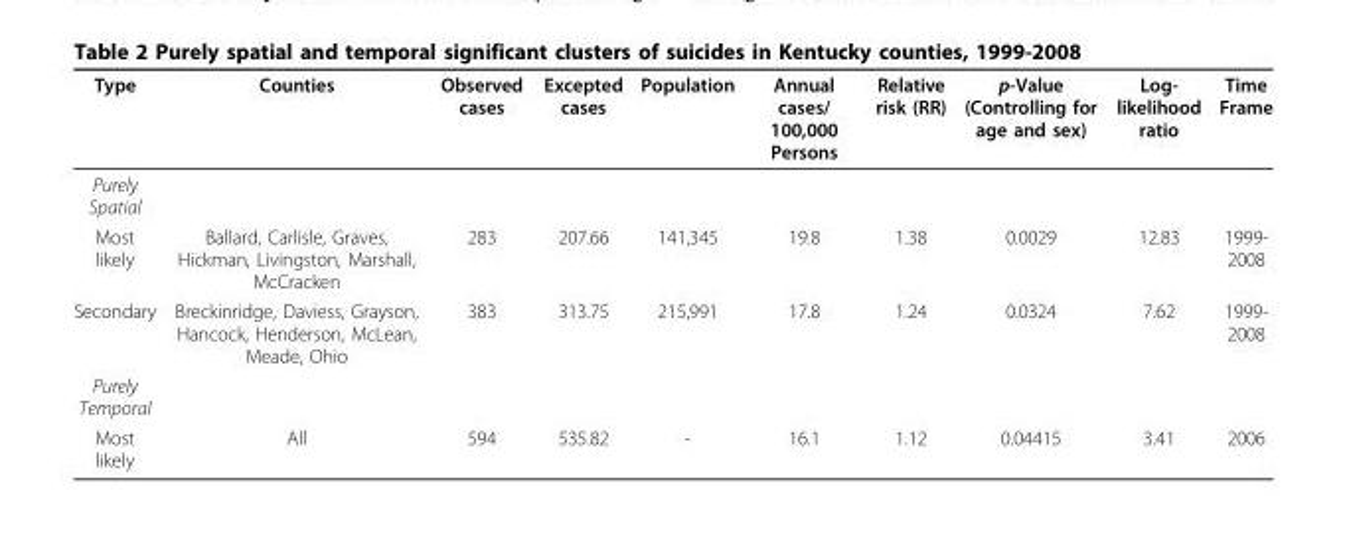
<table><thead><tr><td>Type</td><td>Counties</td><td>Observed cases</td><td>Excepted cases</td><td>Population</td><td>Annual cases/ 100,000 Persons</td><td>Relative risk (RR)</td><td>p-Value (Controlling for age and sex)</td><td>Log- likelihood ratio</td><td>Time Frame</td></tr></thead><tbody><tr><td colspan="10">Purely Spatial</td></tr><tr><td>Most likely</td><td>Ballard, Carlisle, Graves, Hickman, Livingston, Marshall, McCracken</td><td>283</td><td>207.66</td><td>141,345</td><td>19.8</td><td>1.38</td><td>0.0029</td><td>12.83</td><td>1999- 2008</td></tr><tr><td>Secondary</td><td>Breckinridge, Daviess, Grayson, Hancock, Henderson, McLean, Meade, Ohio</td><td>383</td><td>313.75</td><td>215,991</td><td>17.8</td><td>1.24</td><td>0.0324</td><td>7.62</td><td>1999- 2008</td></tr><tr><td colspan="10">Purely Temporal</td></tr><tr><td>Most likely</td><td>All</td><td>594</td><td>535.82</td><td>-</td><td>16.1</td><td>1.12</td><td>0.04415</td><td>3.41</td><td>2006</td></tr></tbody></table>